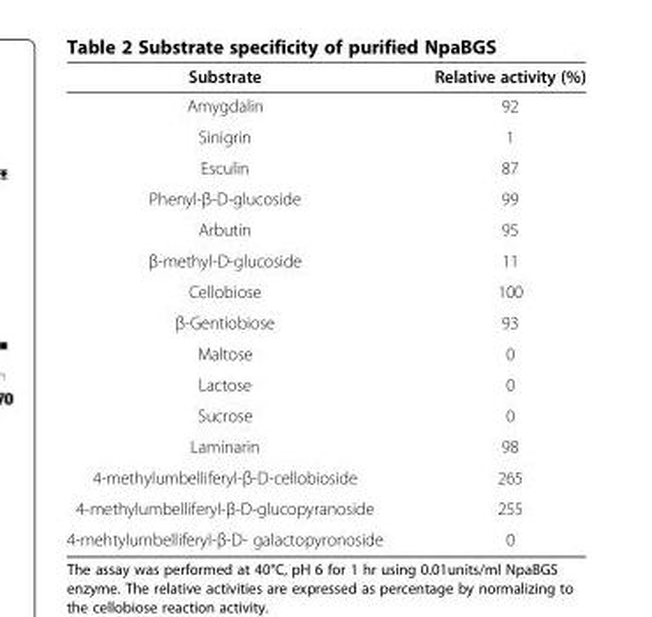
<table><thead><tr><td>Substrate</td><td>Relative activity (%)</td></tr></thead><tbody><tr><td>Amygdalin</td><td>92</td></tr><tr><td>Sinigrin</td><td>1</td></tr><tr><td>Esculin</td><td>87</td></tr><tr><td>Phenyl-β-D-glucoside</td><td>99</td></tr><tr><td>Arbutin</td><td>95</td></tr><tr><td>β-methyl-D-glucoside</td><td>11</td></tr><tr><td>Cellobiose</td><td>100</td></tr><tr><td>β-Gentiobiose</td><td>93</td></tr><tr><td>Maltose</td><td>0</td></tr><tr><td>Lactose</td><td>0</td></tr><tr><td>Sucrose</td><td>0</td></tr><tr><td>Laminarin</td><td>98</td></tr><tr><td>4-methylumbelliferyl-β-D-cellobioside</td><td>265</td></tr><tr><td>4-methylumbelliferyl-β-D-glucopyranoside</td><td>255</td></tr><tr><td>4-mehtylumbelliferyl-β-D- galactopyronoside</td><td>0</td></tr></tbody></table>